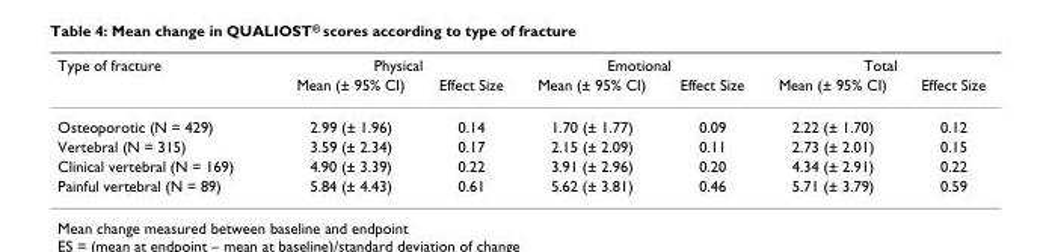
<table><thead><tr><td rowspan="2">Type of fracture</td><td colspan="2">Physical</td><td colspan="2">Emotional</td><td colspan="2">Total</td></tr><tr><td>Mean (± 95% CI)</td><td>Effect Size</td><td>Mean (± 95% CI)</td><td>Effect Size</td><td>Mean (± 95% CI)</td><td>Effect Size</td></tr></thead><tbody><tr><td>Osteoporotic (N = 429)</td><td>2.99 (± 1.96)</td><td>0.14</td><td>1.70 (± 1.77)</td><td>0.09</td><td>2.22 (± 1.70)</td><td>0.12</td></tr><tr><td>Vertebral (N = 315)</td><td>3.59 (± 2.34)</td><td>0.17</td><td>2.15 (± 2.09)</td><td>0.11</td><td>2.73 (± 2.01)</td><td>0.15</td></tr><tr><td>Clinical vertebral (N = 169)</td><td>4.90 (± 3.39)</td><td>0.22</td><td>3.91 (± 2.96)</td><td>0.20</td><td>4.34 (± 2.91)</td><td>0.22</td></tr><tr><td>Painful vertebral (N = 89)</td><td>5.84 (± 4.43)</td><td>0.61</td><td>5.62 (± 3.81)</td><td>0.46</td><td>5.71 (± 3.79)</td><td>0.59</td></tr></tbody></table>